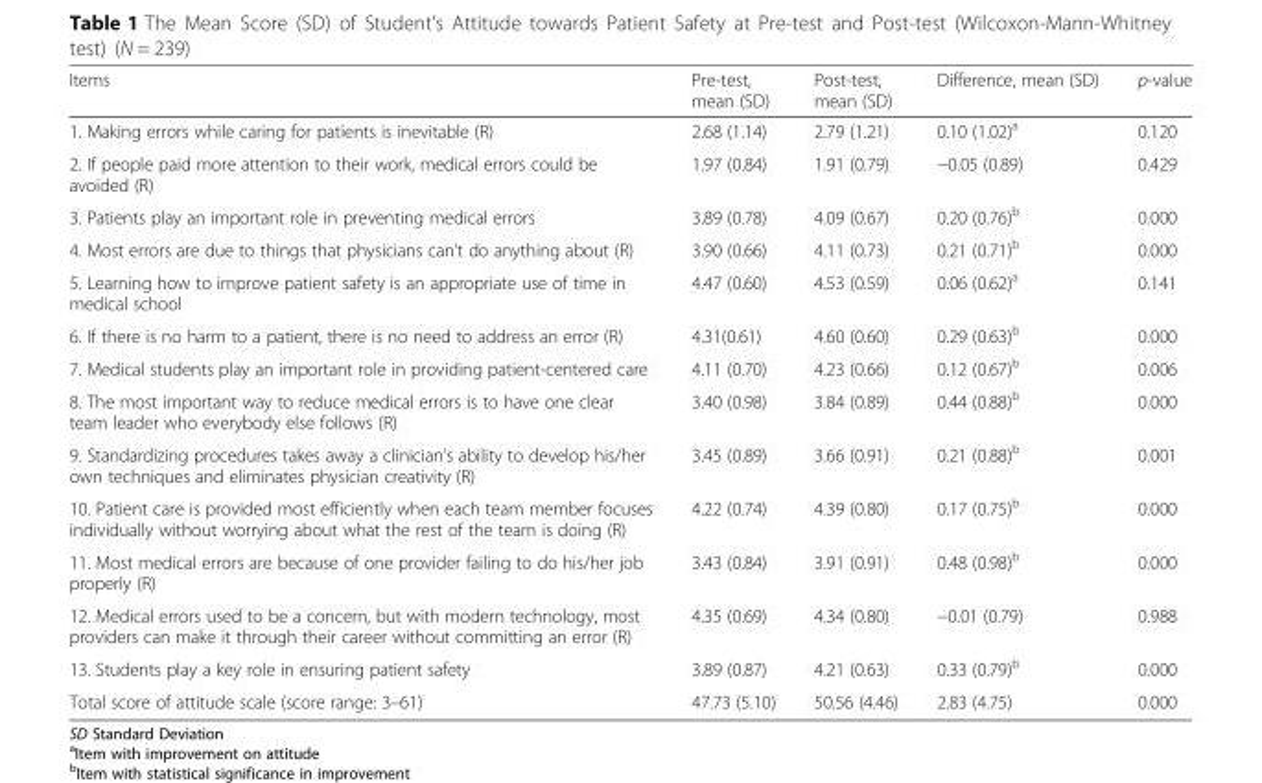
<table><thead><tr><td>Items</td><td>Pre-test, mean (SD)</td><td>Post-test, mean (SD)</td><td>Difference, mean (SD)</td><td>p-value</td></tr></thead><tbody><tr><td>1. Making errors while caring for patients is inevitable (R)</td><td>2.68 (1.14)</td><td>2.79 (1.21)</td><td>0.10 (1.02)<sup>a</sup></td><td>0.120</td></tr><tr><td>2. If people paid more attention to their work, medical errors could be avoided (R)</td><td>1.97 (0.84)</td><td>1.91 (0.79)</td><td>−0.05 (0.89)</td><td>0.429</td></tr><tr><td>3. Patients play an important role in preventing medical errors</td><td>3.89 (0.78)</td><td>4.09 (0.67)</td><td>0.20 (0.76)<sup>b</sup></td><td>0.000</td></tr><tr><td>4. Most errors are due to things that physicians can’t do anything about (R)</td><td>3.90 (0.66)</td><td>4.11 (0.73)</td><td>0.21 (0.71)<sup>b</sup></td><td>0.000</td></tr><tr><td>5. Learning how to improve patient safety is an appropriate use of time in medical school</td><td>4.47 (0.60)</td><td>4.53 (0.59)</td><td>0.06 (0.62)<sup>a</sup></td><td>0.141</td></tr><tr><td>6. If there is no harm to a patient, there is no need to address an error (R)</td><td>4.31(0.61)</td><td>4.60 (0.60)</td><td>0.29 (0.63)<sup>b</sup></td><td>0.000</td></tr><tr><td>7. Medical students play an important role in providing patient-centered care</td><td>4.11 (0.70)</td><td>4.23 (0.66)</td><td>0.12 (0.67)<sup>b</sup></td><td>0.006</td></tr><tr><td>8. The most important way to reduce medical errors is to have one clear team leader who everybody else follows (R)</td><td>3.40 (0.98)</td><td>3.84 (0.89)</td><td>0.44 (0.88)<sup>b</sup></td><td>0.000</td></tr><tr><td>9. Standardizing procedures takes away a clinician’s ability to develop his/her own techniques and eliminates physician creativity (R)</td><td>3.45 (0.89)</td><td>3.66 (0.91)</td><td>0.21 (0.88)<sup>b</sup></td><td>0.001</td></tr><tr><td>10. Patient care is provided most efficiently when each team member focuses individually without worrying about what the rest of the team is doing (R)</td><td>4.22 (0.74)</td><td>4.39 (0.80)</td><td>0.17 (0.75)<sup>b</sup></td><td>0.000</td></tr><tr><td>11. Most medical errors are because of one provider failing to do his/her job properly (R)</td><td>3.43 (0.84)</td><td>3.91 (0.91)</td><td>0.48 (0.98)<sup>b</sup></td><td>0.000</td></tr><tr><td>12. Medical errors used to be a concern, but with modern technology, most providers can make it through their career without committing an error (R)</td><td>4.35 (0.69)</td><td>4.34 (0.80)</td><td>−0.01 (0.79)</td><td>0.988</td></tr><tr><td>13. Students play a key role in ensuring patient safety</td><td>3.89 (0.87)</td><td>4.21 (0.63)</td><td>0.33 (0.79)<sup>b</sup></td><td>0.000</td></tr><tr><td>Total score of attitude scale (score range: 3–61)</td><td>47.73 (5.10)</td><td>50.56 (4.46)</td><td>2.83 (4.75)</td><td>0.000</td></tr></tbody></table>